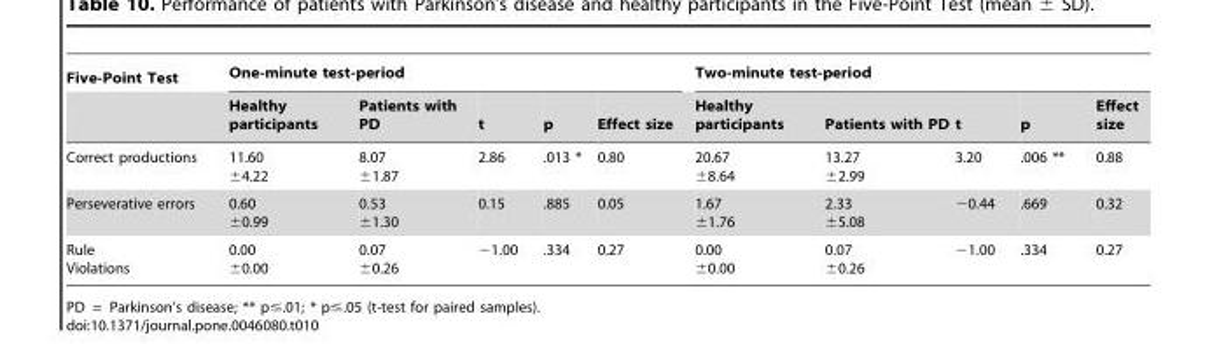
<table><thead><tr><td rowspan="2">Five-Point Test</td><td colspan="5">One-minute test-period</td><td colspan="5">Two-minute test-period</td></tr><tr><td>Healthy participants</td><td>Patients with PD</td><td>t</td><td>p</td><td>Effect size</td><td>Healthy participants</td><td>Patients with PD</td><td>t</td><td>p</td><td>Effect size</td></tr></thead><tbody><tr><td>Correct productions</td><td>11.60 ±4.22</td><td>8.07 ±1.87</td><td>2.86</td><td>.013 *</td><td>0.80</td><td>20.67 ±8.64</td><td>13.27 ±2.99</td><td>3.20</td><td>.006 **</td><td>0.88</td></tr><tr><td>Perseverative errors</td><td>0.60 ±0.99</td><td>0.53 ±1.30</td><td>0.15</td><td>.885</td><td>0.05</td><td>1.67 ±1.76</td><td>2.33 ±5.08</td><td>−0.44</td><td>.669</td><td>0.32</td></tr><tr><td>Rule Violations</td><td>0.00 ±0.00</td><td>0.07 ±0.26</td><td>−1.00</td><td>.334</td><td>0.27</td><td>0.00 ±0.00</td><td>0.07 ±0.26</td><td>−1.00</td><td>.334</td><td>0.27</td></tr></tbody></table>